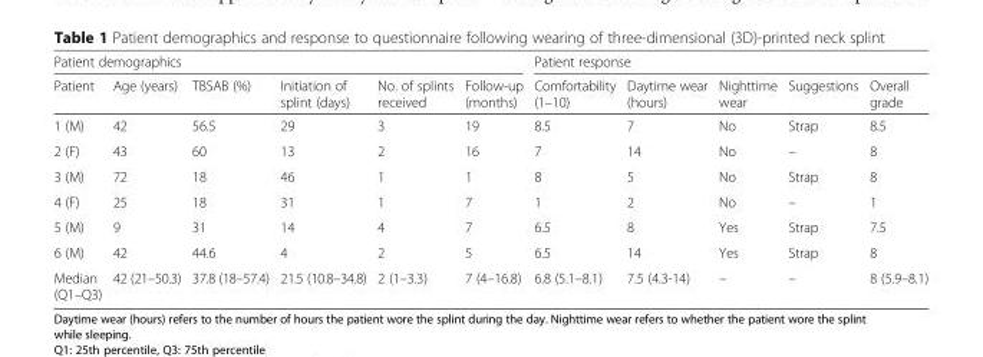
<table><thead><tr><td colspan="6">Patient demographics</td><td colspan="5">Patient response</td></tr><tr><td>Patient</td><td>Age (years)</td><td>TBSAB (%)</td><td>Initiation of splint (days)</td><td>No. of splints received</td><td>Follow-up (months)</td><td>Comfortability (1–10)</td><td>Daytime wear (hours)</td><td>Nighttime wear</td><td>Suggestions</td><td>Overall grade</td></tr></thead><tbody><tr><td>1 (M)</td><td>42</td><td>56.5</td><td>29</td><td>3</td><td>19</td><td>8.5</td><td>7</td><td>No</td><td>Strap</td><td>8.5</td></tr><tr><td>2 (F)</td><td>43</td><td>60</td><td>13</td><td>2</td><td>16</td><td>7</td><td>14</td><td>No</td><td>–</td><td>8</td></tr><tr><td>3 (M)</td><td>72</td><td>18</td><td>46</td><td>1</td><td>1</td><td>8</td><td>5</td><td>No</td><td>Strap</td><td>8</td></tr><tr><td>4 (F)</td><td>25</td><td>18</td><td>31</td><td>1</td><td>7</td><td>1</td><td>2</td><td>No</td><td>–</td><td>1</td></tr><tr><td>5 (M)</td><td>9</td><td>31</td><td>14</td><td>4</td><td>7</td><td>6.5</td><td>8</td><td>Yes</td><td>Strap</td><td>7.5</td></tr><tr><td>6 (M)</td><td>42</td><td>44.6</td><td>4</td><td>2</td><td>5</td><td>6.5</td><td>14</td><td>Yes</td><td>Strap</td><td>8</td></tr><tr><td>Median (Q1–Q3)</td><td>42 (21–50.3)</td><td>37.8 (18–57.4)</td><td>21.5 (10.8–34.8)</td><td>2 (1–3.3)</td><td>7 (4–16.8)</td><td>6.8 (5.1–8.1)</td><td>7.5 (4.3-14)</td><td>–</td><td>–</td><td>8 (5.9–8.1)</td></tr></tbody></table>